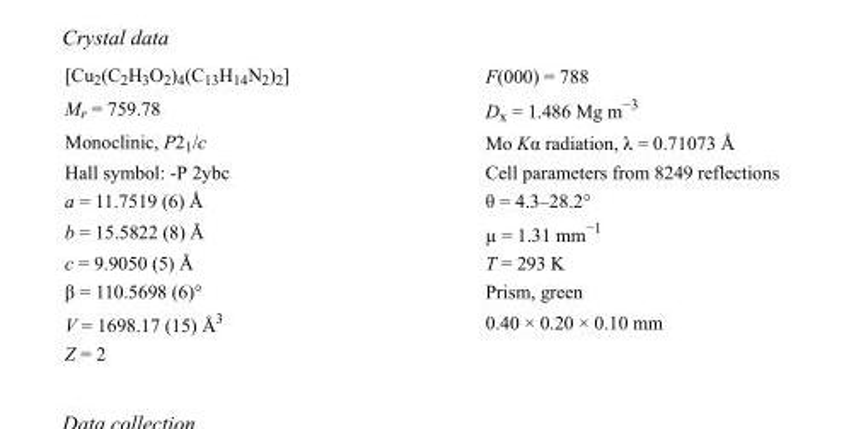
<table><tbody><tr><td>[Cu<sub>2</sub>(C<sub>2</sub>H<sub>3</sub>O<sub>2</sub>)<sub>4</sub>(C<sub>13</sub>H<sub>14</sub>N<sub>2</sub>)<sub>2</sub>]</td><td>F(000) = 788</td></tr><tr><td>M<sub>r</sub> = 759.78</td><td>D<sub>x</sub> = 1.486 Mg m<sup>−3</sup></td></tr><tr><td>Monoclinic, P2<sub>1</sub>/c</td><td>Mo Kα radiation, λ = 0.71073 Å</td></tr><tr><td>Hall symbol: -P 2ybc</td><td>Cell parameters from 8249 reflections</td></tr><tr><td>a = 11.7519 (6) Å</td><td>θ = 4.3–28.2°</td></tr><tr><td>b = 15.5822 (8) Å</td><td>µ = 1.31 mm<sup>−1</sup></td></tr><tr><td>c = 9.9050 (5) Å</td><td>T = 293 K</td></tr><tr><td>β = 110.5698 (6)°</td><td>Prism, green</td></tr><tr><td>V = 1698.17 (15) Å<sup>3</sup></td><td>0.40 × 0.20 × 0.10 mm</td></tr><tr><td>Z = 2</td><td></td></tr></tbody></table>